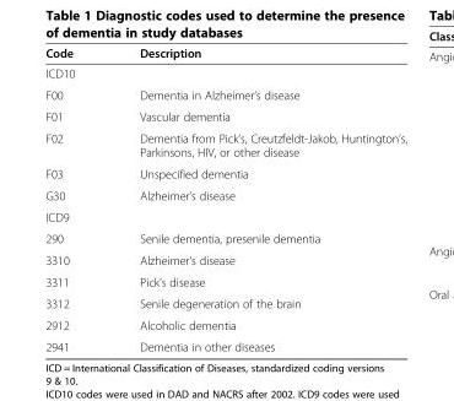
<table><thead><tr><td>Code</td><td>Description</td></tr></thead><tbody><tr><td colspan="2">ICD10</td></tr><tr><td>F00</td><td>Dementia in Alzheimer’s disease</td></tr><tr><td>F01</td><td>Vascular dementia</td></tr><tr><td>F02</td><td>Dementia from Pick’s, Creutzfeldt-Jakob, Huntington’s, Parkinsons, HIV, or other disease</td></tr><tr><td>F03</td><td>Unspecified dementia</td></tr><tr><td>G30</td><td>Alzheimer’s disease</td></tr><tr><td colspan="2">ICD9</td></tr><tr><td>290</td><td>Senile dementia, presenile dementia</td></tr><tr><td>3310</td><td>Alzheimer’s disease</td></tr><tr><td>3311</td><td>Pick’s disease</td></tr><tr><td>3312</td><td>Senile degeneration of the brain</td></tr><tr><td>2912</td><td>Alcoholic dementia</td></tr><tr><td>2941</td><td>Dementia in other diseases</td></tr></tbody></table>